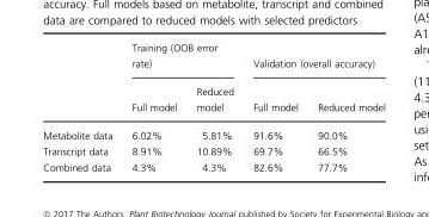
<table><thead><tr><td rowspan="2"></td><td colspan="2">Training (OOB error rate)</td><td colspan="2">Validation (overall accuracy)</td></tr><tr><td>Full model</td><td>Reduced model</td><td>Full model</td><td>Reduced model</td></tr></thead><tbody><tr><td>Metabolite data</td><td>6.02%</td><td>5.81%</td><td>91.6%</td><td>90.0%</td></tr><tr><td>Transcript data</td><td>8.91%</td><td>10.89%</td><td>69.7%</td><td>66.5%</td></tr><tr><td>Combined data</td><td>4.3%</td><td>4.3%</td><td>82.6%</td><td>77.7%</td></tr></tbody></table>